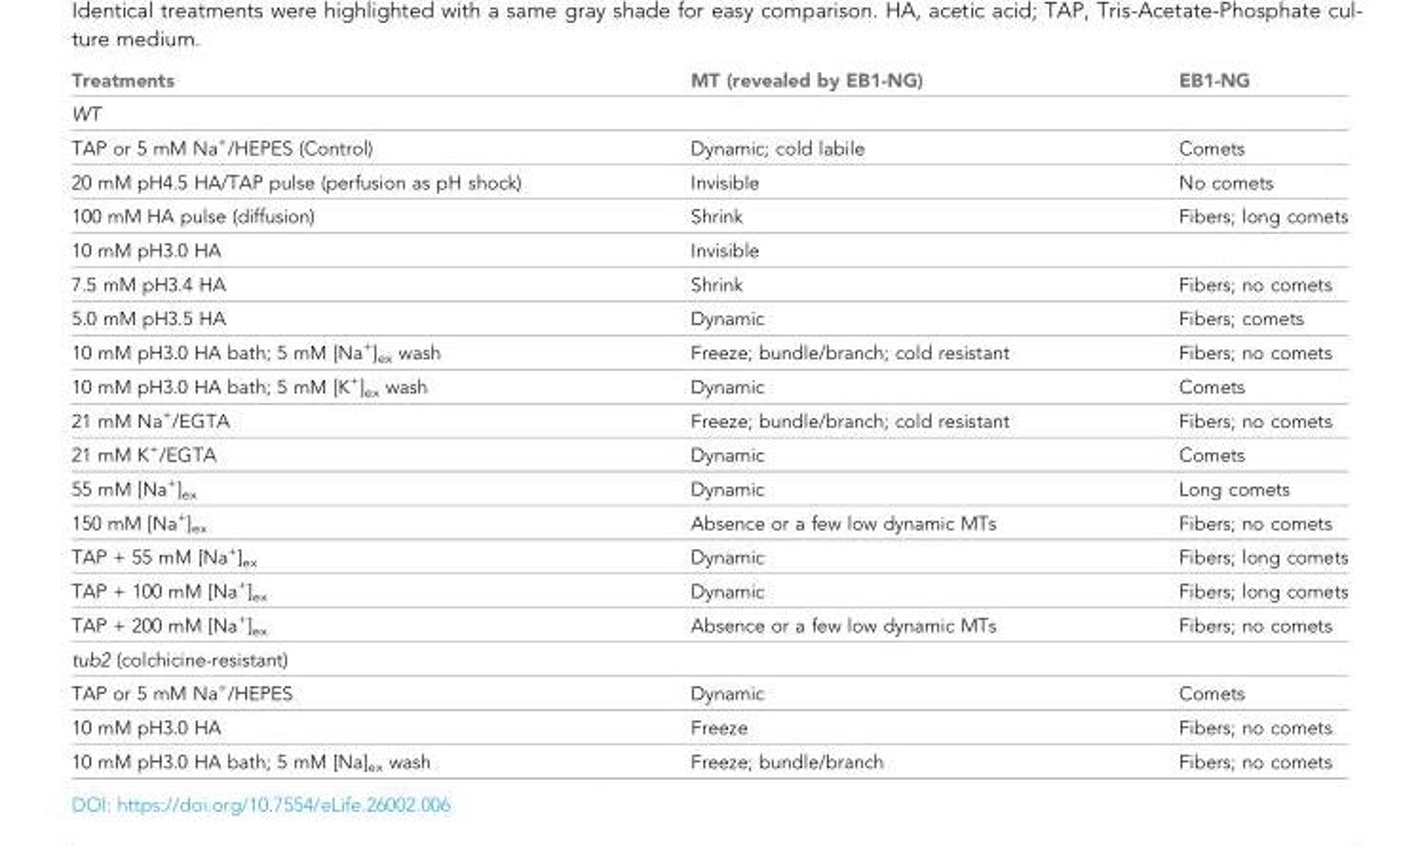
<table><thead><tr><td>Treatments</td><td>MT (revealed by EB1-NG)</td><td>EB1-NG</td></tr></thead><tbody><tr><td colspan="3">WT</td></tr><tr><td>TAP or 5 mM Na<sup>+</sup>/HEPES (Control)</td><td>Dynamic; cold labile</td><td>Comets</td></tr><tr><td>20 mM pH4.5 HA/TAP pulse (perfusion as pH shock)</td><td>Invisible</td><td>No comets</td></tr><tr><td>100 mM HA pulse (diffusion)</td><td>Shrink</td><td>Fibers; long comets</td></tr><tr><td>10 mM pH3.0 HA</td><td>Invisible</td><td></td></tr><tr><td>7.5 mM pH3.4 HA</td><td>Shrink</td><td>Fibers; no comets</td></tr><tr><td>5.0 mM pH3.5 HA</td><td>Dynamic</td><td>Fibers; comets</td></tr><tr><td>10 mM pH3.0 HA bath; 5 mM [Na<sup>+</sup>]<sub>ex</sub> wash</td><td>Freeze; bundle/branch; cold resistant</td><td>Fibers; no comets</td></tr><tr><td>10 mM pH3.0 HA bath; 5 mM [K<sup>+</sup>]<sub>ex</sub> wash</td><td>Dynamic</td><td>Comets</td></tr><tr><td>21 mM Na<sup>+</sup>/EGTA</td><td>Freeze; bundle/branch; cold resistant</td><td>Fibers; no comets</td></tr><tr><td>21 mM K<sup>+</sup>/EGTA</td><td>Dynamic</td><td>Comets</td></tr><tr><td>55 mM [Na<sup>+</sup>]<sub>ex</sub></td><td>Dynamic</td><td>Long comets</td></tr><tr><td>150 mM [Na<sup>+</sup>]<sub>ex</sub></td><td>Absence or a few low dynamic MTs</td><td>Fibers; no comets</td></tr><tr><td>TAP + 55 mM [Na<sup>+</sup>]<sub>ex</sub></td><td>Dynamic</td><td>Fibers; long comets</td></tr><tr><td>TAP + 100 mM [Na<sup>+</sup>]<sub>ex</sub></td><td>Dynamic</td><td>Fibers; long comets</td></tr><tr><td>TAP + 200 mM [Na<sup>+</sup>]<sub>ex</sub></td><td>Absence or a few low dynamic MTs</td><td>Fibers; no comets</td></tr><tr><td colspan="3">tub2 (colchicine-resistant)</td></tr><tr><td>TAP or 5 mM Na<sup>+</sup>/HEPES</td><td>Dynamic</td><td>Comets</td></tr><tr><td>10 mM pH3.0 HA</td><td>Freeze</td><td>Fibers; no comets</td></tr><tr><td>10 mM pH3.0 HA bath; 5 mM [Na]<sub>ex</sub> wash</td><td>Freeze; bundle/branch</td><td>Fibers; no comets</td></tr></tbody></table>